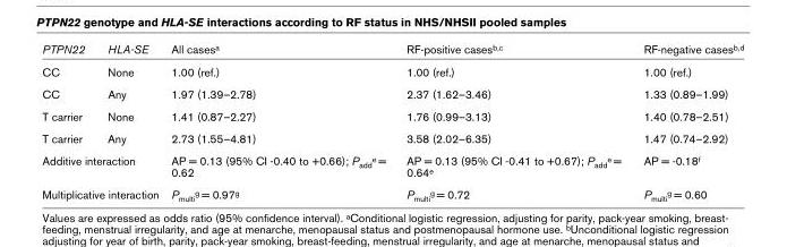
<table><thead><tr><td>PTPN22</td><td>HLA-SE</td><td>All cases<sup>a</sup></td><td>RF-positive cases<sup>b,c</sup></td><td>RF-negative cases<sup>b,d</sup></td></tr></thead><tbody><tr><td>CC</td><td>None</td><td>1.00 (ref.)</td><td>1.00 (ref.)</td><td>1.00 (ref.)</td></tr><tr><td>CC</td><td>Any</td><td>1.97 (1.39–2.78)</td><td>2.37 (1.62–3.46)</td><td>1.33 (0.89–1.99)</td></tr><tr><td>T carrier</td><td>None</td><td>1.41 (0.87–2.27)</td><td>1.76 (0.99–3.13)</td><td>1.40 (0.78–2.51)</td></tr><tr><td>T carrier</td><td>Any</td><td>2.73 (1.55–4.81)</td><td>3.58 (2.02–6.35)</td><td>1.47 (0.74–2.92)</td></tr><tr><td colspan="2">Additive interaction</td><td>AP = 0.13 (95% CI -0.40 to +0.66); P<sub>add</sub><sup>e</sup> = 0.62</td><td>AP = 0.13 (95% CI -0.41 to +0.67); P<sub>add</sub><sup>e</sup> = 0.64<sup>e</sup></td><td>AP = -0.18<sup>f</sup></td></tr><tr><td colspan="2">Multiplicative interaction</td><td>P<sub>multi</sub><sup>g</sup> = 0.97<sup>g</sup></td><td>P<sub>multi</sub><sup>g</sup> = 0.72</td><td>P<sub>multi</sub><sup>g</sup> = 0.60</td></tr></tbody></table>